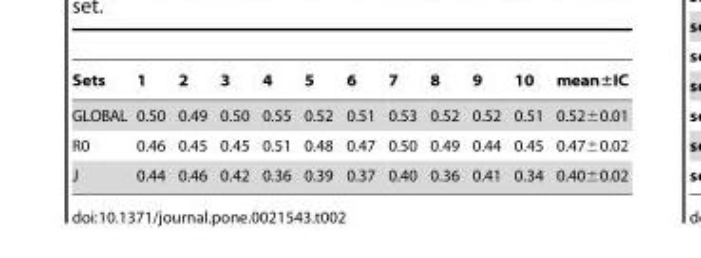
<table><thead><tr><td>Sets</td><td>1</td><td>2</td><td>3</td><td>4</td><td>5</td><td>6</td><td>7</td><td>8</td><td>9</td><td>10</td><td>mean±IC</td></tr></thead><tbody><tr><td>GLOBAL</td><td>0.50</td><td>0.49</td><td>0.50</td><td>0.55</td><td>0.52</td><td>0.51</td><td>0.53</td><td>0.52</td><td>0.52</td><td>0.51</td><td>0.52±0.01</td></tr><tr><td>R0</td><td>0.46</td><td>0.45</td><td>0.45</td><td>0.51</td><td>0.48</td><td>0.47</td><td>0.50</td><td>0.49</td><td>0.44</td><td>0.45</td><td>0.47±0.02</td></tr><tr><td>J</td><td>0.44</td><td>0.46</td><td>0.42</td><td>0.36</td><td>0.39</td><td>0.37</td><td>0.40</td><td>0.36</td><td>0.41</td><td>0.34</td><td>0.40±0.02</td></tr></tbody></table>